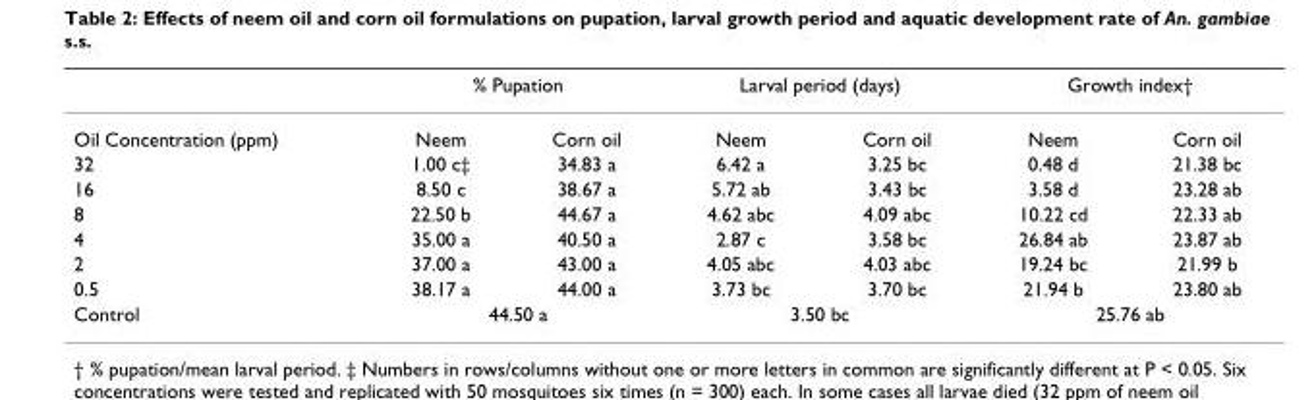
<table><thead><tr><td rowspan="2">Oil Concentration (ppm)</td><td colspan="2">% Pupation</td><td colspan="2">Larval period (days)</td><td colspan="2">Growth index†</td></tr><tr><td>Neem</td><td>Corn oil</td><td>Neem</td><td>Corn oil</td><td>Neem</td><td>Corn oil</td></tr></thead><tbody><tr><td>32</td><td>1.00 c‡</td><td>34.83 a</td><td>6.42 a</td><td>3.25 bc</td><td>0.48 d</td><td>21.38 bc</td></tr><tr><td>16</td><td>8.50 c</td><td>38.67 a</td><td>5.72 ab</td><td>3.43 bc</td><td>3.58 d</td><td>23.28 ab</td></tr><tr><td>8</td><td>22.50 b</td><td>44.67 a</td><td>4.62 abc</td><td>4.09 abc</td><td>10.22 cd</td><td>22.33 ab</td></tr><tr><td>4</td><td>35.00 a</td><td>40.50 a</td><td>2.87 c</td><td>3.58 bc</td><td>26.84 ab</td><td>23.87 ab</td></tr><tr><td>2</td><td>37.00 a</td><td>43.00 a</td><td>4.05 abc</td><td>4.03 abc</td><td>19.24 bc</td><td>21.99 b</td></tr><tr><td>0.5</td><td>38.17 a</td><td>44.00 a</td><td>3.73 bc</td><td>3.70 bc</td><td>21.94 b</td><td>23.80 ab</td></tr><tr><td>Control</td><td colspan="2">44.50 a</td><td colspan="2">3.50 bc</td><td colspan="2">25.76 ab</td></tr></tbody></table>